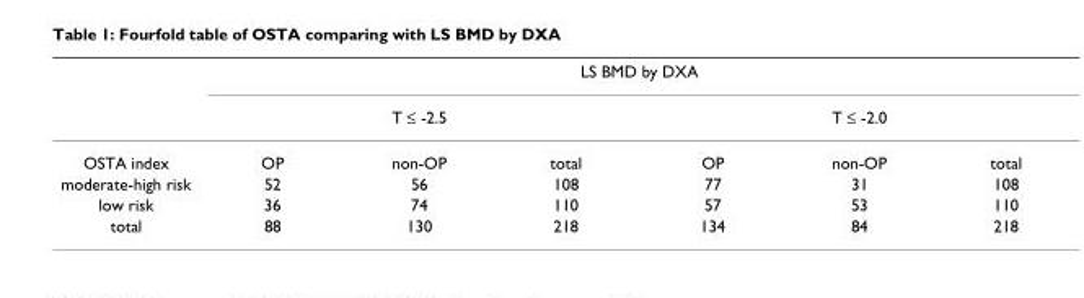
<table><thead><tr><td rowspan="3">OSTA index</td><td colspan="6">LS BMD by DXA</td></tr><tr><td colspan="3">T ≤ -2.5</td><td colspan="3">T ≤ -2.0</td></tr><tr><td>OP</td><td>non-OP</td><td>total</td><td>OP</td><td>non-OP</td><td>total</td></tr></thead><tbody><tr><td>moderate-high risk</td><td>52</td><td>56</td><td>108</td><td>77</td><td>31</td><td>108</td></tr><tr><td>low risk</td><td>36</td><td>74</td><td>110</td><td>57</td><td>53</td><td>110</td></tr><tr><td>total</td><td>88</td><td>130</td><td>218</td><td>134</td><td>84</td><td>218</td></tr></tbody></table>